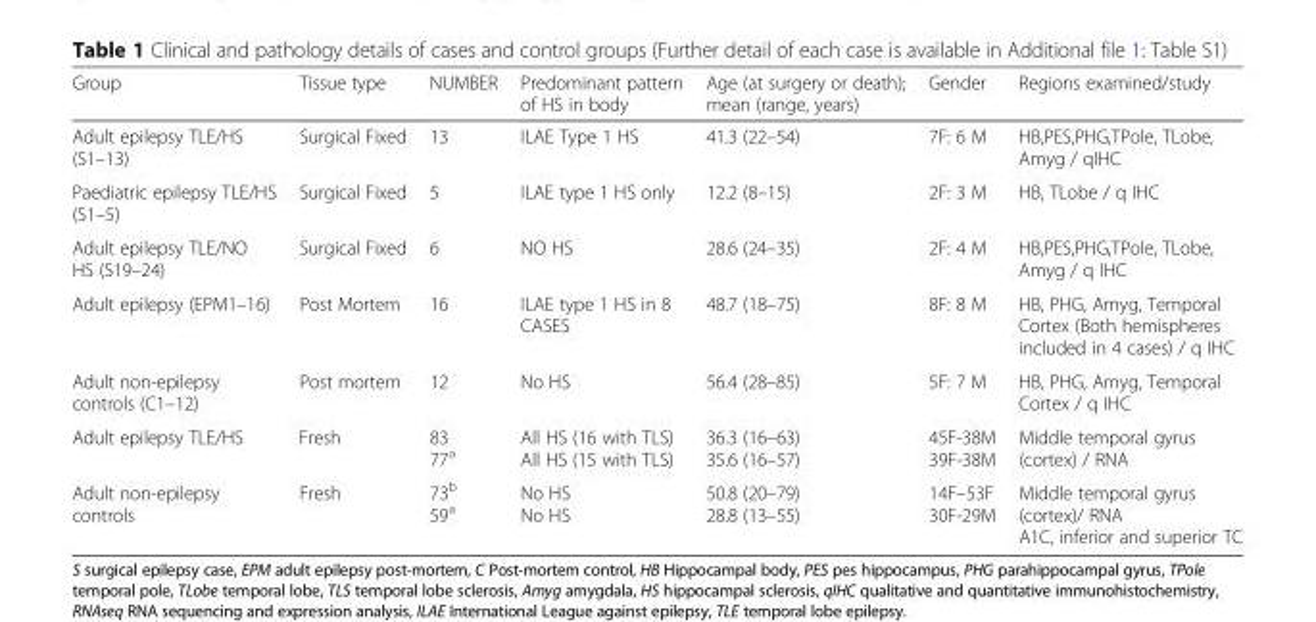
<table><thead><tr><td>Group</td><td>Tissue type</td><td>NUMBER</td><td>Predominant pattern of HS in body</td><td>Age (at surgery or death); mean (range, years)</td><td>Gender</td><td>Regions examined/study</td></tr></thead><tbody><tr><td>Adult epilepsy TLE/HS (S1–13)</td><td>Surgical Fixed</td><td>13</td><td>ILAE Type 1 HS</td><td>41.3 (22–54)</td><td>7F: 6 M</td><td>HB,PES,PHG,TPole, TLobe, Amyg / qIHC</td></tr><tr><td>Paediatric epilepsy TLE/HS (S1–5)</td><td>Surgical Fixed</td><td>5</td><td>ILAE type 1 HS only</td><td>12.2 (8–15)</td><td>2F: 3 M</td><td>HB, TLobe / q IHC</td></tr><tr><td>Adult epilepsy TLE/NO HS (S19–24)</td><td>Surgical Fixed</td><td>6</td><td>NO HS</td><td>28.6 (24–35)</td><td>2F: 4 M</td><td>HB,PES,PHG,TPole, TLobe, Amyg / q IHC</td></tr><tr><td>Adult epilepsy (EPM1–16)</td><td>Post Mortem</td><td>16</td><td>ILAE type 1 HS in 8 CASES</td><td>48.7 (18–75)</td><td>8F: 8 M</td><td>HB, PHG, Amyg, Temporal Cortex (Both hemispheres included in 4 cases) / q IHC</td></tr><tr><td>Adult non-epilepsy controls (C1–12)</td><td>Post mortem</td><td>12</td><td>No HS</td><td>56.4 (28–85)</td><td>5F: 7 M</td><td>HB, PHG, Amyg, Temporal Cortex / q IHC</td></tr><tr><td>Adult epilepsy TLE/HS</td><td>Fresh</td><td>83 77<sup>a</sup></td><td>All HS (16 with TLS) All HS (15 with TLS)</td><td>36.3 (16–63) 35.6 (16–57)</td><td>45F-38M 39F-38M</td><td>Middle temporal gyrus (cortex) / RNA</td></tr><tr><td>Adult non-epilepsy controls</td><td>Fresh</td><td>73<sup>b</sup> 59<sup>a</sup></td><td>No HS No HS</td><td>50.8 (20–79) 28.8 (13–55)</td><td>14F–53F 30F-29M</td><td>Middle temporal gyrus (cortex)/ RNA A1C, inferior and superior TC</td></tr></tbody></table>